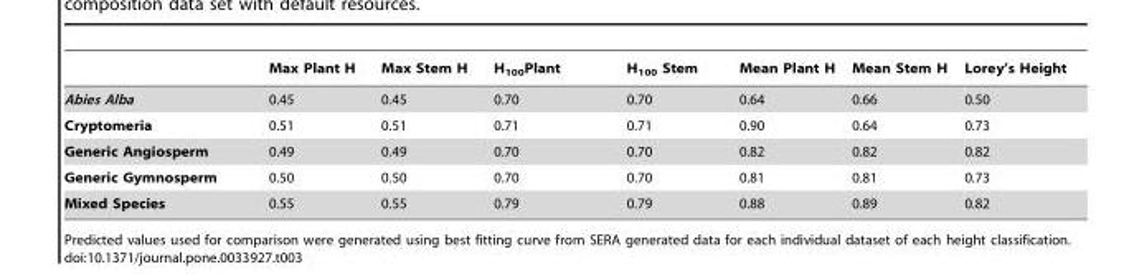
<table><thead><tr><td></td><td>Max Plant H</td><td>Max Stem H</td><td>H<sub>100</sub>Plant</td><td>H<sub>100</sub> Stem</td><td>Mean Plant H</td><td>Mean Stem H</td><td>Lorey’s Height</td></tr></thead><tbody><tr><td>Abies Alba</td><td>0.45</td><td>0.45</td><td>0.70</td><td>0.70</td><td>0.64</td><td>0.66</td><td>0.50</td></tr><tr><td>Cryptomeria</td><td>0.51</td><td>0.51</td><td>0.71</td><td>0.71</td><td>0.90</td><td>0.64</td><td>0.73</td></tr><tr><td>Generic Angiosperm</td><td>0.49</td><td>0.49</td><td>0.70</td><td>0.70</td><td>0.82</td><td>0.82</td><td>0.82</td></tr><tr><td>Generic Gymnosperm</td><td>0.50</td><td>0.50</td><td>0.70</td><td>0.70</td><td>0.81</td><td>0.81</td><td>0.73</td></tr><tr><td>Mixed Species</td><td>0.55</td><td>0.55</td><td>0.79</td><td>0.79</td><td>0.88</td><td>0.89</td><td>0.82</td></tr></tbody></table>